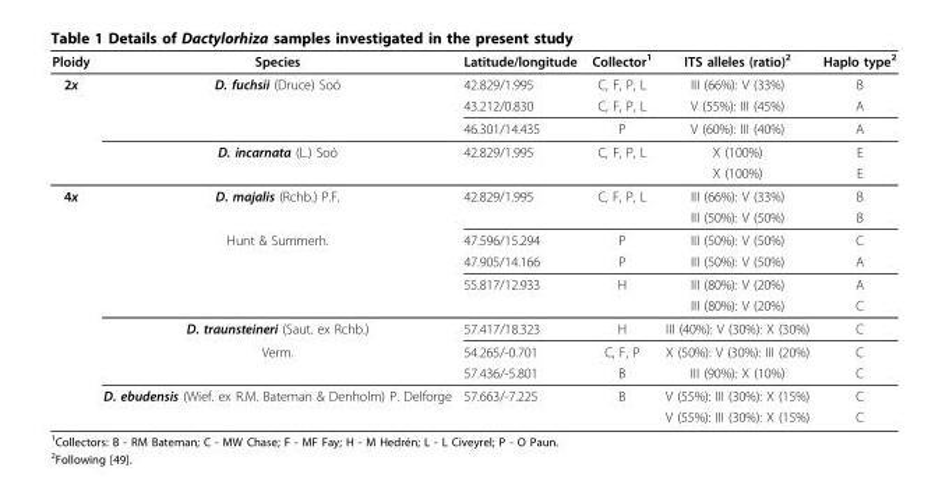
<table><thead><tr><td>Ploidy</td><td>Species</td><td>Latitude/longitude</td><td>Collector<sup>1</sup></td><td>ITS alleles (ratio)<sup>2</sup></td><td>Haplo type<sup>2</sup></td></tr></thead><tbody><tr><td rowspan="5">2x</td><td>D. fuchsii (Druce) Soó</td><td>42.829/1.995</td><td>C, F, P, L</td><td>III (66%): V (33%)</td><td>B</td></tr><tr><td></td><td>43.212/0.830</td><td>C, F, P, L</td><td>V (55%): III (45%)</td><td>A</td></tr><tr><td></td><td>46.301/14.435</td><td>P</td><td>V (60%): III (40%)</td><td>A</td></tr><tr><td>D. incarnata (L.) Soó</td><td>42.829/1.995</td><td>C, F, P, L</td><td>X (100%)</td><td>E</td></tr><tr><td></td><td></td><td></td><td>X (100%)</td><td>E</td></tr><tr><td rowspan="11">4x</td><td>D. majalis (Rchb.) P.F.</td><td>42.829/1.995</td><td>C, F, P, L</td><td>III (66%): V (33%)</td><td>B</td></tr><tr><td></td><td></td><td></td><td>III (50%): V (50%)</td><td>B</td></tr><tr><td>Hunt &amp; Summerh.</td><td>47.596/15.294</td><td>P</td><td>III (50%): V (50%)</td><td>C</td></tr><tr><td></td><td>47.905/14.166</td><td>P</td><td>III (50%): V (50%)</td><td>A</td></tr><tr><td></td><td>55.817/12.933</td><td>H</td><td>III (80%): V (20%)</td><td>A</td></tr><tr><td></td><td></td><td></td><td>III (80%): V (20%)</td><td>C</td></tr><tr><td>D. traunsteineri (Saut. ex Rchb.)</td><td>57.417/18.323</td><td>H</td><td>III (40%): V (30%): X (30%)</td><td>C</td></tr><tr><td>Verm.</td><td>54.265/-0.701</td><td>C, F, P</td><td>X (50%): V (30%): III (20%)</td><td>C</td></tr><tr><td></td><td>57.436/-5.801</td><td>B</td><td>III (90%): X (10%)</td><td>C</td></tr><tr><td>D. ebudensis (Wief. ex R.M. Bateman &amp; Denholm) P. Delforge</td><td>57.663/-7.225</td><td>B</td><td>V (55%): III (30%): X (15%)</td><td>C</td></tr><tr><td></td><td></td><td></td><td>V (55%): III (30%): X (15%)</td><td>C</td></tr></tbody></table>